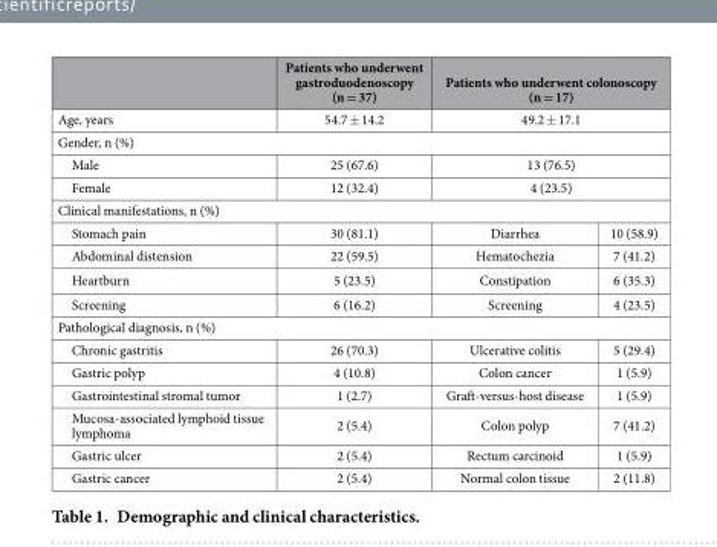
<table><thead><tr><td></td><td>Patients who underwent gastroduodenoscopy (n = 37)</td><td colspan="2">Patients who underwent colonoscopy (n = 17)</td></tr></thead><tbody><tr><td>Age, years</td><td>54.7 ± 14.2</td><td colspan="2">49.2 ± 17.1</td></tr><tr><td colspan="4">Gender, n (%)</td></tr><tr><td>Male</td><td>25 (67.6)</td><td colspan="2">13 (76.5)</td></tr><tr><td>Female</td><td>12 (32.4)</td><td colspan="2">4 (23.5)</td></tr><tr><td colspan="4">Clinical manifestations, n (%)</td></tr><tr><td>Stomach pain</td><td>30 (81.1)</td><td>Diarrhea</td><td>10 (58.9)</td></tr><tr><td>Abdominal distension</td><td>22 (59.5)</td><td>Hematochezia</td><td>7 (41.2)</td></tr><tr><td>Heartburn</td><td>5 (23.5)</td><td>Constipation</td><td>6 (35.3)</td></tr><tr><td>Screening</td><td>6 (16.2)</td><td>Screening</td><td>4 (23.5)</td></tr><tr><td colspan="4">Pathological diagnosis, n (%)</td></tr><tr><td>Chronic gastritis</td><td>26 (70.3)</td><td>Ulcerative colitis</td><td>5 (29.4)</td></tr><tr><td>Gastric polyp</td><td>4 (10.8)</td><td>Colon cancer</td><td>1 (5.9)</td></tr><tr><td>Gastrointestinal stromal tumor</td><td>1 (2.7)</td><td>Graft-versus-host disease</td><td>1 (5.9)</td></tr><tr><td>Mucosa-associated lymphoid tissue lymphoma</td><td>2 (5.4)</td><td>Colon polyp</td><td>7 (41.2)</td></tr><tr><td>Gastric ulcer</td><td>2 (5.4)</td><td>Rectum carcinoid</td><td>1 (5.9)</td></tr><tr><td>Gastric cancer</td><td>2 (5.4)</td><td>Normal colon tissue</td><td>2 (11.8)</td></tr></tbody></table>